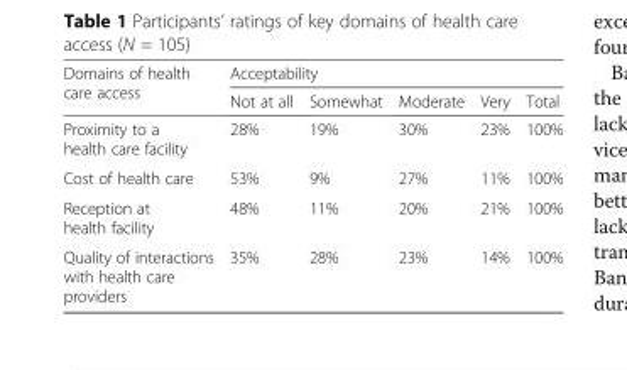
<table><thead><tr><td rowspan="2">Domains of health care access</td><td colspan="5">Acceptability</td></tr><tr><td>Not at all</td><td>Somewhat</td><td>Moderate</td><td>Very</td><td>Total</td></tr></thead><tbody><tr><td>Proximity to a health care facility</td><td>28%</td><td>19%</td><td>30%</td><td>23%</td><td>100%</td></tr><tr><td>Cost of health care</td><td>53%</td><td>9%</td><td>27%</td><td>11%</td><td>100%</td></tr><tr><td>Reception at health facility</td><td>48%</td><td>11%</td><td>20%</td><td>21%</td><td>100%</td></tr><tr><td>Quality of interactions with health care providers</td><td>35%</td><td>28%</td><td>23%</td><td>14%</td><td>100%</td></tr></tbody></table>